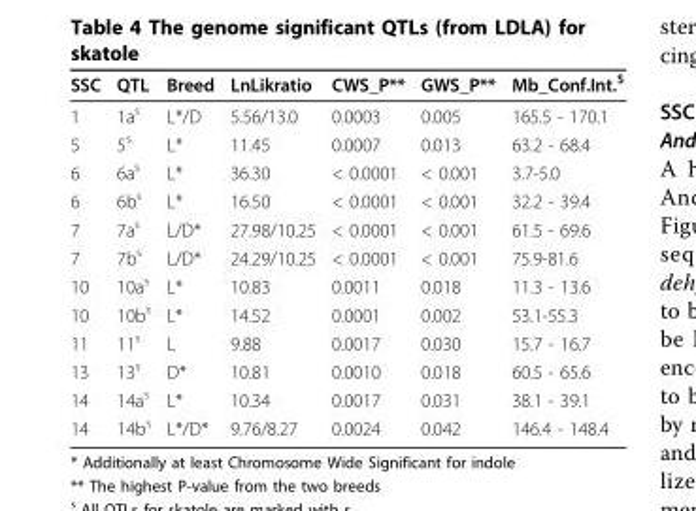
<table><thead><tr><td>SSC</td><td>QTL</td><td>Breed</td><td>LnLikratio</td><td>CWS_P**</td><td>GWS_P**</td><td>Mb_Conf.Int.<sup>$</sup></td></tr></thead><tbody><tr><td>1</td><td>1a<sup>s</sup></td><td>L*/D</td><td>5.56/13.0</td><td>0.0003</td><td>0.005</td><td>165.5 - 170.1</td></tr><tr><td>5</td><td>5<sup>s</sup></td><td>L*</td><td>11.45</td><td>0.0007</td><td>0.013</td><td>63.2 - 68.4</td></tr><tr><td>6</td><td>6a<sup>s</sup></td><td>L*</td><td>36.30</td><td>&lt; 0.0001</td><td>&lt; 0.001</td><td>3.7-5.0</td></tr><tr><td>6</td><td>6b<sup>s</sup></td><td>L*</td><td>16.50</td><td>&lt; 0.0001</td><td>&lt; 0.001</td><td>32.2 - 39.4</td></tr><tr><td>7</td><td>7a<sup>s</sup></td><td>L/D*</td><td>27.98/10.25</td><td>&lt; 0.0001</td><td>&lt; 0.001</td><td>61.5 - 69.6</td></tr><tr><td>7</td><td>7b<sup>s</sup></td><td>L/D*</td><td>24.29/10.25</td><td>&lt; 0.0001</td><td>&lt; 0.001</td><td>75.9-81.6</td></tr><tr><td>10</td><td>10a<sup>s</sup></td><td>L*</td><td>10.83</td><td>0.0011</td><td>0.018</td><td>11.3 - 13.6</td></tr><tr><td>10</td><td>10b<sup>s</sup></td><td>L*</td><td>14.52</td><td>0.0001</td><td>0.002</td><td>53.1-55.3</td></tr><tr><td>11</td><td>11<sup>s</sup></td><td>L</td><td>9.88</td><td>0.0017</td><td>0.030</td><td>15.7 - 16.7</td></tr><tr><td>13</td><td>13<sup>s</sup></td><td>D*</td><td>10.81</td><td>0.0010</td><td>0.018</td><td>60.5 - 65.6</td></tr><tr><td>14</td><td>14a<sup>s</sup></td><td>L*</td><td>10.34</td><td>0.0017</td><td>0.031</td><td>38.1 - 39.1</td></tr><tr><td>14</td><td>14b<sup>s</sup></td><td>L*/D*</td><td>9.76/8.27</td><td>0.0024</td><td>0.042</td><td>146.4 - 148.4</td></tr></tbody></table>